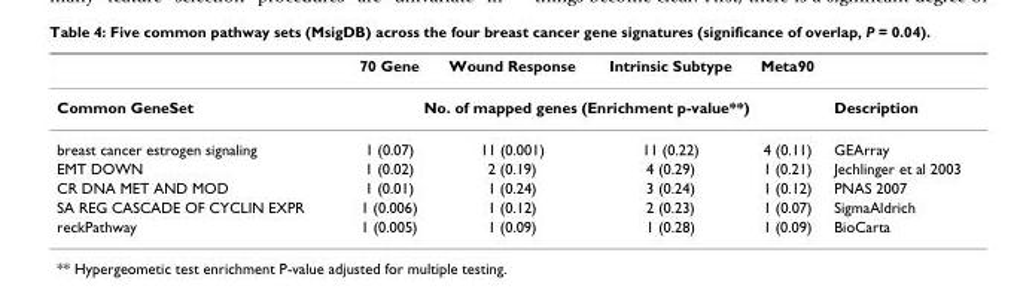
<table><thead><tr><td></td><td>70 Gene</td><td>Wound Response</td><td>Intrinsic Subtype</td><td>Meta90</td><td></td></tr></thead><tbody><tr><td>Common GeneSet</td><td colspan="4">No. of mapped genes (Enrichment p-value**)</td><td>Description</td></tr><tr><td>breast cancer estrogen signaling</td><td>1 (0.07)</td><td>11 (0.001)</td><td>11 (0.22)</td><td>4 (0.11)</td><td>GEArray</td></tr><tr><td>EMT DOWN</td><td>1 (0.02)</td><td>2 (0.19)</td><td>4 (0.29)</td><td>1 (0.21)</td><td>Jechlinger et al 2003</td></tr><tr><td>CR DNA MET AND MOD</td><td>1 (0.01)</td><td>1 (0.24)</td><td>3 (0.24)</td><td>1 (0.12)</td><td>PNAS 2007</td></tr><tr><td>SA REG CASCADE OF CYCLIN EXPR</td><td>1 (0.006)</td><td>1 (0.12)</td><td>2 (0.23)</td><td>1 (0.07)</td><td>SigmaAldrich</td></tr><tr><td>reckPathway</td><td>1 (0.005)</td><td>1 (0.09)</td><td>1 (0.28)</td><td>1 (0.09)</td><td>BioCarta</td></tr></tbody></table>